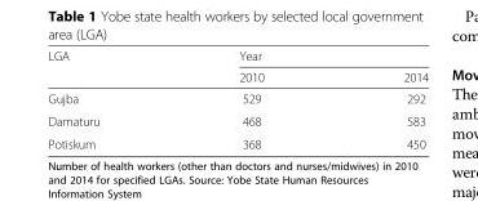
<table><thead><tr><td rowspan="2">LGA</td><td colspan="2">Year</td></tr><tr><td>2010</td><td>2014</td></tr></thead><tbody><tr><td>Gujba</td><td>529</td><td>292</td></tr><tr><td>Damaturu</td><td>468</td><td>583</td></tr><tr><td>Potiskum</td><td>368</td><td>450</td></tr></tbody></table>